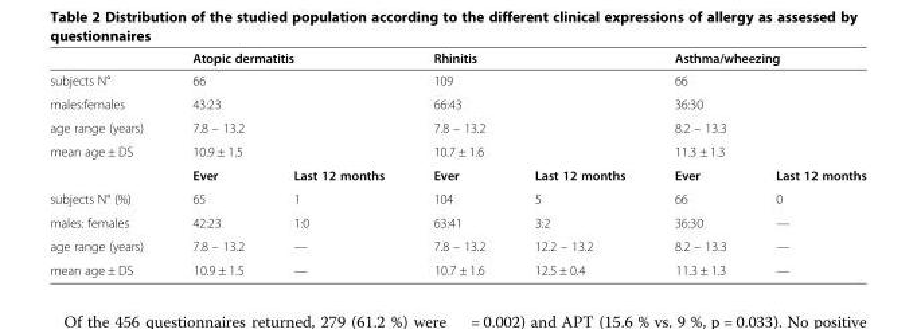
<table><thead><tr><td></td><td colspan="2">Atopic dermatitis</td><td colspan="2">Rhinitis</td><td colspan="2">Asthma/wheezing</td></tr></thead><tbody><tr><td>subjects N°</td><td colspan="2">66</td><td colspan="2">109</td><td colspan="2">66</td></tr><tr><td>males:females</td><td colspan="2">43:23</td><td colspan="2">66:43</td><td colspan="2">36:30</td></tr><tr><td>age range (years)</td><td colspan="2">7.8 – 13.2</td><td colspan="2">7.8 – 13.2</td><td colspan="2">8.2 – 13.3</td></tr><tr><td rowspan="2">mean age ± DS</td><td colspan="2">10.9 ± 1.5</td><td colspan="2">10.7 ± 1.6</td><td colspan="2">11.3 ± 1.3</td></tr><tr><td>Ever</td><td>Last 12 months</td><td>Ever</td><td>Last 12 months</td><td>Ever</td><td>Last 12 months</td></tr><tr><td>subjects N° (%)</td><td>65</td><td>1</td><td>104</td><td>5</td><td>66</td><td>0</td></tr><tr><td>males: females</td><td>42:23</td><td>1:0</td><td>63:41</td><td>3:2</td><td>36:30</td><td>—</td></tr><tr><td>age range (years)</td><td>7.8 – 13.2</td><td>—</td><td>7.8 – 13.2</td><td>12.2 – 13.2</td><td>8.2 – 13.3</td><td>—</td></tr><tr><td>mean age ± DS</td><td>10.9 ± 1.5</td><td>—</td><td>10.7 ± 1.6</td><td>12.5 ± 0.4</td><td>11.3 ± 1.3</td><td>—</td></tr></tbody></table>